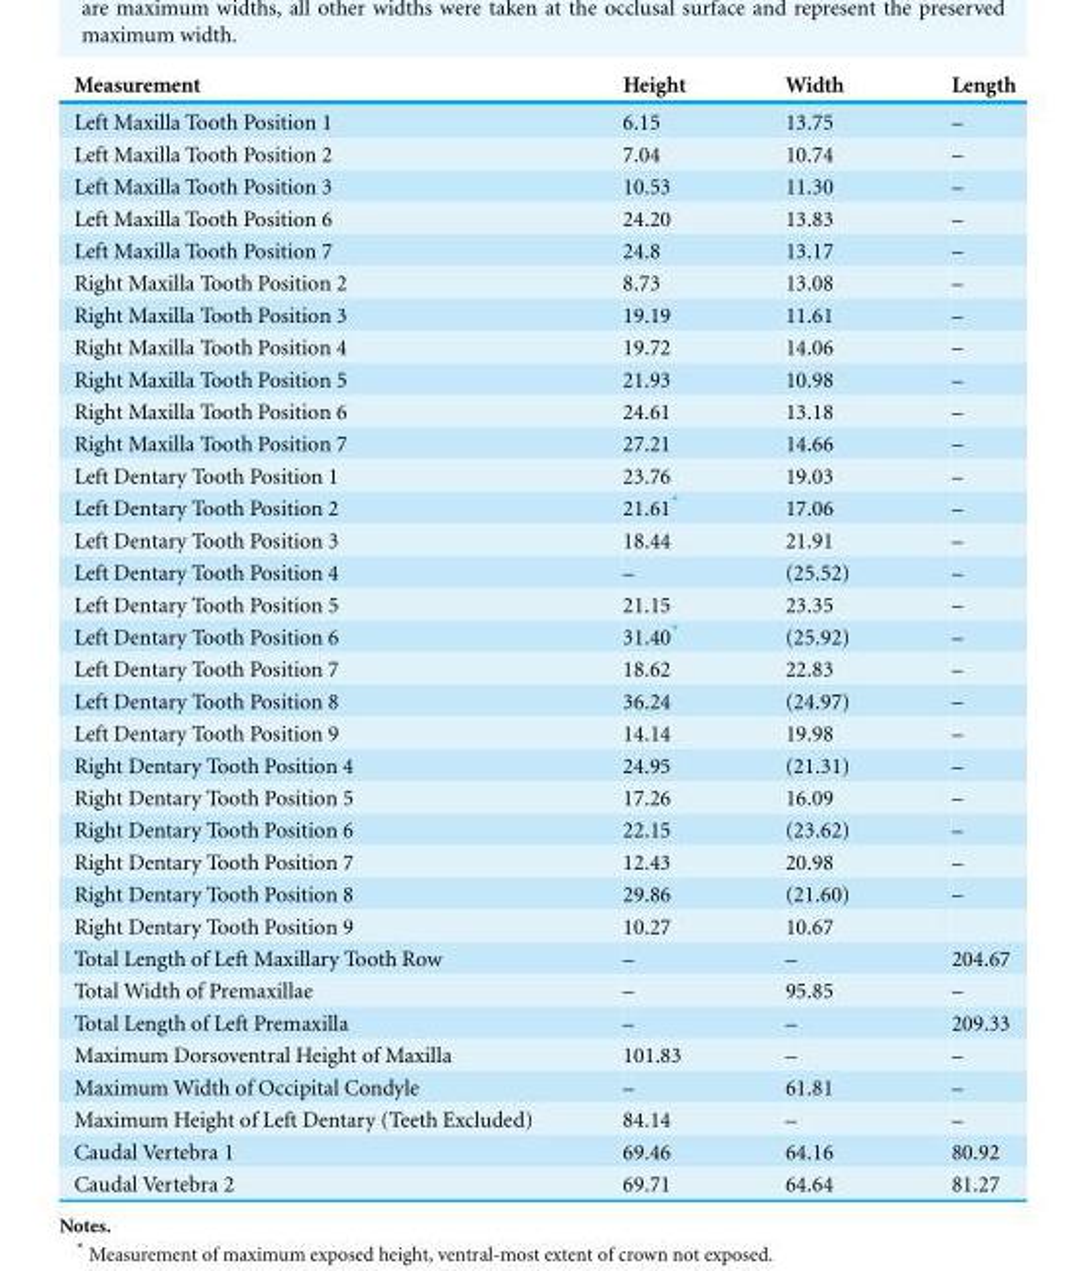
<table><thead><tr><td>Measurement</td><td>Height</td><td>Width</td><td>Length</td></tr></thead><tbody><tr><td>Left Maxilla Tooth Position 1</td><td>6.15</td><td>13.75</td><td>–</td></tr><tr><td>Left Maxilla Tooth Position 2</td><td>7.04</td><td>10.74</td><td>–</td></tr><tr><td>Left Maxilla Tooth Position 3</td><td>10.53</td><td>11.30</td><td>–</td></tr><tr><td>Left Maxilla Tooth Position 6</td><td>24.20</td><td>13.83</td><td>–</td></tr><tr><td>Left Maxilla Tooth Position 7</td><td>24.8</td><td>13.17</td><td>–</td></tr><tr><td>Right Maxilla Tooth Position 2</td><td>8.73</td><td>13.08</td><td>–</td></tr><tr><td>Right Maxilla Tooth Position 3</td><td>19.19</td><td>11.61</td><td>–</td></tr><tr><td>Right Maxilla Tooth Position 4</td><td>19.72</td><td>14.06</td><td>–</td></tr><tr><td>Right Maxilla Tooth Position 5</td><td>21.93</td><td>10.98</td><td>–</td></tr><tr><td>Right Maxilla Tooth Position 6</td><td>24.61</td><td>13.18</td><td>–</td></tr><tr><td>Right Maxilla Tooth Position 7</td><td>27.21</td><td>14.66</td><td>–</td></tr><tr><td>Left Dentary Tooth Position 1</td><td>23.76</td><td>19.03</td><td>–</td></tr><tr><td>Left Dentary Tooth Position 2</td><td>21.61*</td><td>17.06</td><td>–</td></tr><tr><td>Left Dentary Tooth Position 3</td><td>18.44</td><td>21.91</td><td>–</td></tr><tr><td>Left Dentary Tooth Position 4</td><td>–</td><td>(25.52)</td><td>–</td></tr><tr><td>Left Dentary Tooth Position 5</td><td>21.15</td><td>23.35</td><td>–</td></tr><tr><td>Left Dentary Tooth Position 6</td><td>31.40*</td><td>(25.92)</td><td>–</td></tr><tr><td>Left Dentary Tooth Position 7</td><td>18.62</td><td>22.83</td><td>–</td></tr><tr><td>Left Dentary Tooth Position 8</td><td>36.24</td><td>(24.97)</td><td>–</td></tr><tr><td>Left Dentary Tooth Position 9</td><td>14.14</td><td>19.98</td><td>–</td></tr><tr><td>Right Dentary Tooth Position 4</td><td>24.95</td><td>(21.31)</td><td>–</td></tr><tr><td>Right Dentary Tooth Position 5</td><td>17.26</td><td>16.09</td><td>–</td></tr><tr><td>Right Dentary Tooth Position 6</td><td>22.15</td><td>(23.62)</td><td>–</td></tr><tr><td>Right Dentary Tooth Position 7</td><td>12.43</td><td>20.98</td><td>–</td></tr><tr><td>Right Dentary Tooth Position 8</td><td>29.86</td><td>(21.60)</td><td>–</td></tr><tr><td>Right Dentary Tooth Position 9</td><td>10.27</td><td>10.67</td><td></td></tr><tr><td>Total Length of Left Maxillary Tooth Row</td><td>–</td><td>–</td><td>204.67</td></tr><tr><td>Total Width of Premaxillae</td><td>–</td><td>95.85</td><td>–</td></tr><tr><td>Total Length of Left Premaxilla</td><td>–</td><td>–</td><td>209.33</td></tr><tr><td>Maximum Dorsoventral Height of Maxilla</td><td>101.83</td><td>–</td><td>–</td></tr><tr><td>Maximum Width of Occipital Condyle</td><td>–</td><td>61.81</td><td>–</td></tr><tr><td>Maximum Height of Left Dentary (Teeth Excluded)</td><td>84.14</td><td>–</td><td>–</td></tr><tr><td>Caudal Vertebra 1</td><td>69.46</td><td>64.16</td><td>80.92</td></tr><tr><td>Caudal Vertebra 2</td><td>69.71</td><td>64.64</td><td>81.27</td></tr></tbody></table>